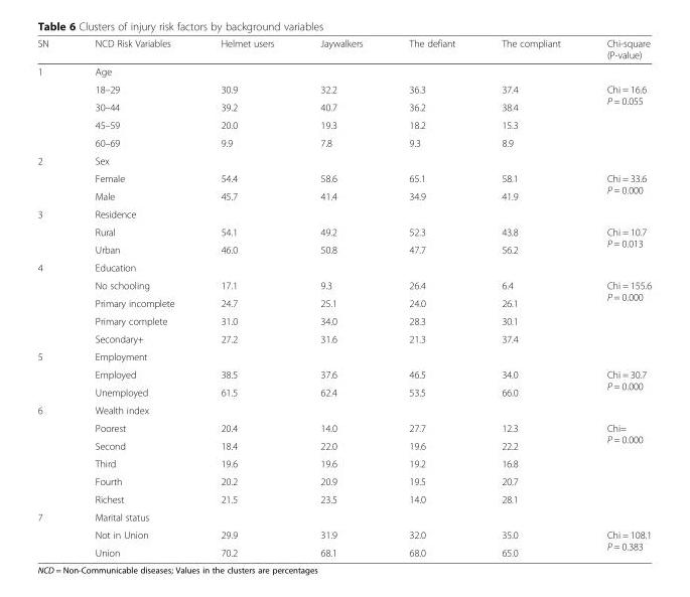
<table><thead><tr><td>SN</td><td>NCD Risk Variables</td><td>Helmet users</td><td>Jaywalkers</td><td>The defiant</td><td>The compliant</td><td>Chi-square (P-value)</td></tr></thead><tbody><tr><td rowspan="5">1</td><td colspan="6">Age</td></tr><tr><td>18–29</td><td>30.9</td><td>32.2</td><td>36.3</td><td>37.4</td><td rowspan="4">Chi = 16.6 P = 0.055</td></tr><tr><td>30–44</td><td>39.2</td><td>40.7</td><td>36.2</td><td>38.4</td></tr><tr><td>45–59</td><td>20.0</td><td>19.3</td><td>18.2</td><td>15.3</td></tr><tr><td>60–69</td><td>9.9</td><td>7.8</td><td>9.3</td><td>8.9</td></tr><tr><td rowspan="3">2</td><td colspan="6">Sex</td></tr><tr><td>Female</td><td>54.4</td><td>58.6</td><td>65.1</td><td>58.1</td><td rowspan="2">Chi = 33.6 P = 0.000</td></tr><tr><td>Male</td><td>45.7</td><td>41.4</td><td>34.9</td><td>41.9</td></tr><tr><td rowspan="3">3</td><td colspan="6">Residence</td></tr><tr><td>Rural</td><td>54.1</td><td>49.2</td><td>52.3</td><td>43.8</td><td rowspan="2">Chi = 10.7 P = 0.013</td></tr><tr><td>Urban</td><td>46.0</td><td>50.8</td><td>47.7</td><td>56.2</td></tr><tr><td rowspan="5">4</td><td colspan="6">Education</td></tr><tr><td>No schooling</td><td>17.1</td><td>9.3</td><td>26.4</td><td>6.4</td><td rowspan="4">Chi = 155.6 P = 0.000</td></tr><tr><td>Primary incomplete</td><td>24.7</td><td>25.1</td><td>24.0</td><td>26.1</td></tr><tr><td>Primary complete</td><td>31.0</td><td>34.0</td><td>28.3</td><td>30.1</td></tr><tr><td>Secondary+</td><td>27.2</td><td>31.6</td><td>21.3</td><td>37.4</td></tr><tr><td rowspan="3">5</td><td colspan="6">Employment</td></tr><tr><td>Employed</td><td>38.5</td><td>37.6</td><td>46.5</td><td>34.0</td><td rowspan="2">Chi = 30.7 P = 0.000</td></tr><tr><td>Unemployed</td><td>61.5</td><td>62.4</td><td>53.5</td><td>66.0</td></tr><tr><td rowspan="6">6</td><td colspan="6">Wealth index</td></tr><tr><td>Poorest</td><td>20.4</td><td>14.0</td><td>27.7</td><td>12.3</td><td rowspan="5">Chi= P = 0.000</td></tr><tr><td>Second</td><td>18.4</td><td>22.0</td><td>19.6</td><td>22.2</td></tr><tr><td>Third</td><td>19.6</td><td>19.6</td><td>19.2</td><td>16.8</td></tr><tr><td>Fourth</td><td>20.2</td><td>20.9</td><td>19.5</td><td>20.7</td></tr><tr><td>Richest</td><td>21.5</td><td>23.5</td><td>14.0</td><td>28.1</td></tr><tr><td rowspan="3">7</td><td colspan="6">Marital status</td></tr><tr><td>Not in Union</td><td>29.9</td><td>31.9</td><td>32.0</td><td>35.0</td><td rowspan="2">Chi = 108.1 P = 0.383</td></tr><tr><td>Union</td><td>70.2</td><td>68.1</td><td>68.0</td><td>65.0</td></tr></tbody></table>